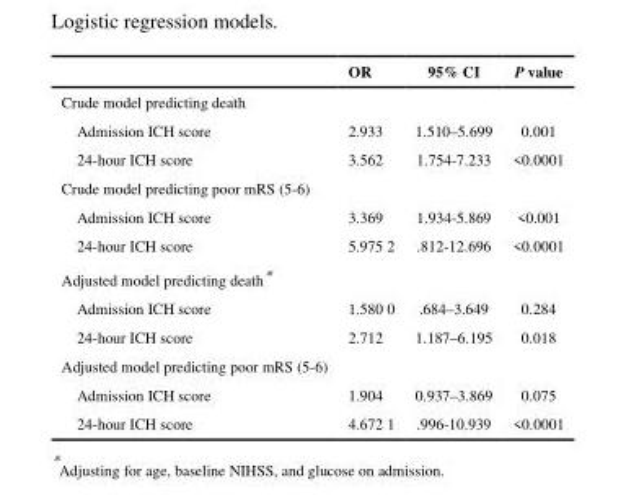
<table><thead><tr><td></td><td>OR</td><td>95% CI</td><td>P value</td></tr></thead><tbody><tr><td colspan="4">Crude model predicting death</td></tr><tr><td>Admission ICH score</td><td>2.933</td><td>1.510–5.699</td><td>0.001</td></tr><tr><td>24-hour ICH score</td><td>3.562</td><td>1.754-7.233</td><td>&lt;0.0001</td></tr><tr><td colspan="4">Crude model predicting poor mRS (5-6)</td></tr><tr><td>Admission ICH score</td><td>3.369</td><td>1.934-5.869</td><td>&lt;0.001</td></tr><tr><td>24-hour ICH score</td><td>5.975 2</td><td>.812-12.696</td><td>&lt;0.0001</td></tr><tr><td colspan="4">Adjusted model predicting death*</td></tr><tr><td>Admission ICH score</td><td>1.580 0</td><td>.684–3.649</td><td>0.284</td></tr><tr><td>24-hour ICH score</td><td>2.712</td><td>1.187–6.195</td><td>0.018</td></tr><tr><td colspan="4">Adjusted model predicting poor mRS (5-6)</td></tr><tr><td>Admission ICH score</td><td>1.904</td><td>0.937–3.869</td><td>0.075</td></tr><tr><td>24-hour ICH score</td><td>4.672 1</td><td>.996-10.939</td><td>&lt;0.0001</td></tr></tbody></table>